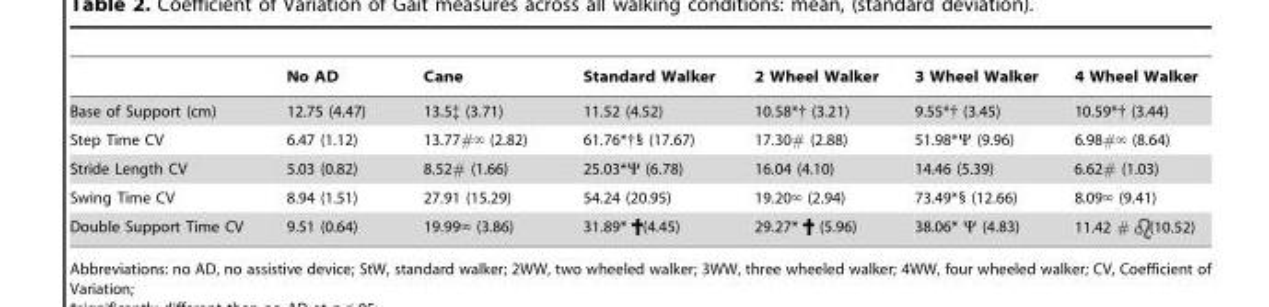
<table><thead><tr><td></td><td>No AD</td><td>Cane</td><td>Standard Walker</td><td>2 Wheel Walker</td><td>3 Wheel Walker</td><td>4 Wheel Walker</td></tr></thead><tbody><tr><td>Base of Support (cm)</td><td>12.75 (4.47)</td><td>13.5‡ (3.71)</td><td>11.52 (4.52)</td><td>10.58*† (3.21)</td><td>9.55*† (3.45)</td><td>10.59*† (3.44)</td></tr><tr><td>Step Time CV</td><td>6.47 (1.12)</td><td>13.77#‘ (2.82)</td><td>61.76*†§ (17.67)</td><td>17.30# (2.88)</td><td>51.98*Ψ (9.96)</td><td>6.98#‘ (8.64)</td></tr><tr><td>Stride Length CV</td><td>5.03 (0.82)</td><td>8.52# (1.66)</td><td>25.03*Ψ (6.78)</td><td>16.04 (4.10)</td><td>14.46 (5.39)</td><td>6.62# (1.03)</td></tr><tr><td>Swing Time CV</td><td>8.94 (1.51)</td><td>27.91 (15.29)</td><td>54.24 (20.95)</td><td>19.20‘ (2.94)</td><td>73.49*§ (12.66)</td><td>8.09‘ (9.41)</td></tr><tr><td>Double Support Time CV</td><td>9.51 (0.64)</td><td>19.99‘ (3.86)</td><td>31.89* (4.45)</td><td>29.27* (5.96)</td><td>38.06* Ψ (4.83)</td><td>11.42 # (10.52)</td></tr></tbody></table>